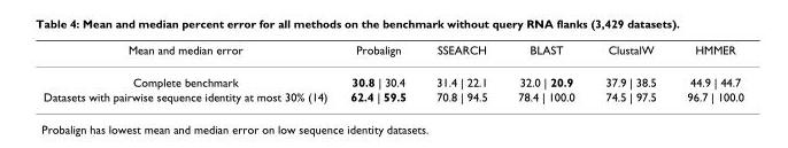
<table><thead><tr><td>Mean and median error</td><td>Probalign</td><td>SSEARCH</td><td>BLAST</td><td>ClustalW</td><td>HMMER</td></tr></thead><tbody><tr><td>Complete benchmark</td><td>30.8 | 30.4</td><td>31.4 | 22.1</td><td>32.0 | 20.9</td><td>37.9 | 38.5</td><td>44.9 | 44.7</td></tr><tr><td>Datasets with pairwise sequence identity at most 30% (14)</td><td>62.4 | 59.5</td><td>70.8 | 94.5</td><td>78.4 | 100.0</td><td>74.5 | 97.5</td><td>96.7 | 100.0</td></tr></tbody></table>